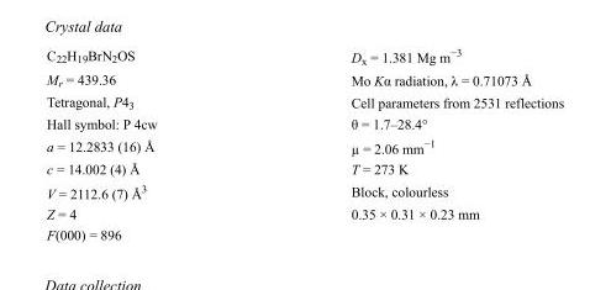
<table><tbody><tr><td>C<sub>22</sub>H<sub>19</sub>BrN<sub>2</sub>OS</td><td>D<sub>x</sub> = 1.381 Mg m<sup>−3</sup></td></tr><tr><td>M<sub>r</sub> = 439.36</td><td>Mo Kα radiation, λ = 0.71073 Å</td></tr><tr><td>Tetragonal, P4<sub>3</sub></td><td>Cell parameters from 2531 reflections</td></tr><tr><td>Hall symbol: P 4cw</td><td>θ = 1.7–28.4°</td></tr><tr><td>a = 12.2833 (16) Å</td><td>µ = 2.06 mm<sup>−1</sup></td></tr><tr><td>c = 14.002 (4) Å</td><td>T = 273 K</td></tr><tr><td>V = 2112.6 (7) Å<sup>3</sup></td><td>Block, colourless</td></tr><tr><td>Z = 4</td><td>0.35 × 0.31 × 0.23 mm</td></tr><tr><td>F(000) = 896</td><td></td></tr></tbody></table>